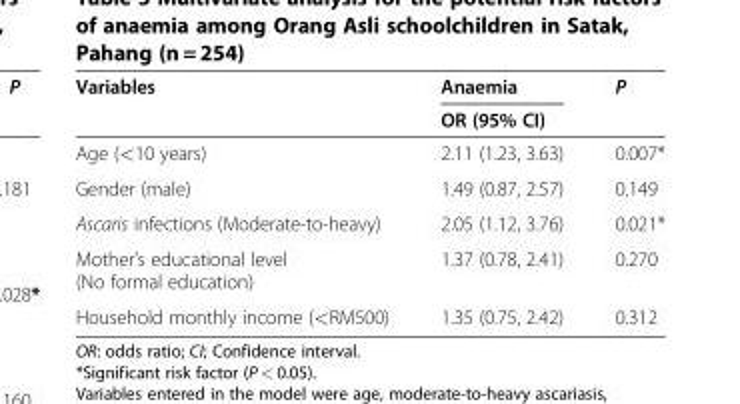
<table><thead><tr><td rowspan="2">Variables</td><td rowspan="2">Anaemia OR (95% CI)</td><td rowspan="2">P</td></tr><tr></tr></thead><tbody><tr><td>Age (&lt;10 years)</td><td>2.11 (1.23, 3.63)</td><td>0.007*</td></tr><tr><td>Gender (male)</td><td>1.49 (0.87, 2.57)</td><td>0.149</td></tr><tr><td>Ascaris infections (Moderate-to-heavy)</td><td>2.05 (1.12, 3.76)</td><td>0.021*</td></tr><tr><td>Mother’s educational level (No formal education)</td><td>1.37 (0.78, 2.41)</td><td>0.270</td></tr><tr><td>Household monthly income (&lt;RM500)</td><td>1.35 (0.75, 2.42)</td><td>0.312</td></tr></tbody></table>